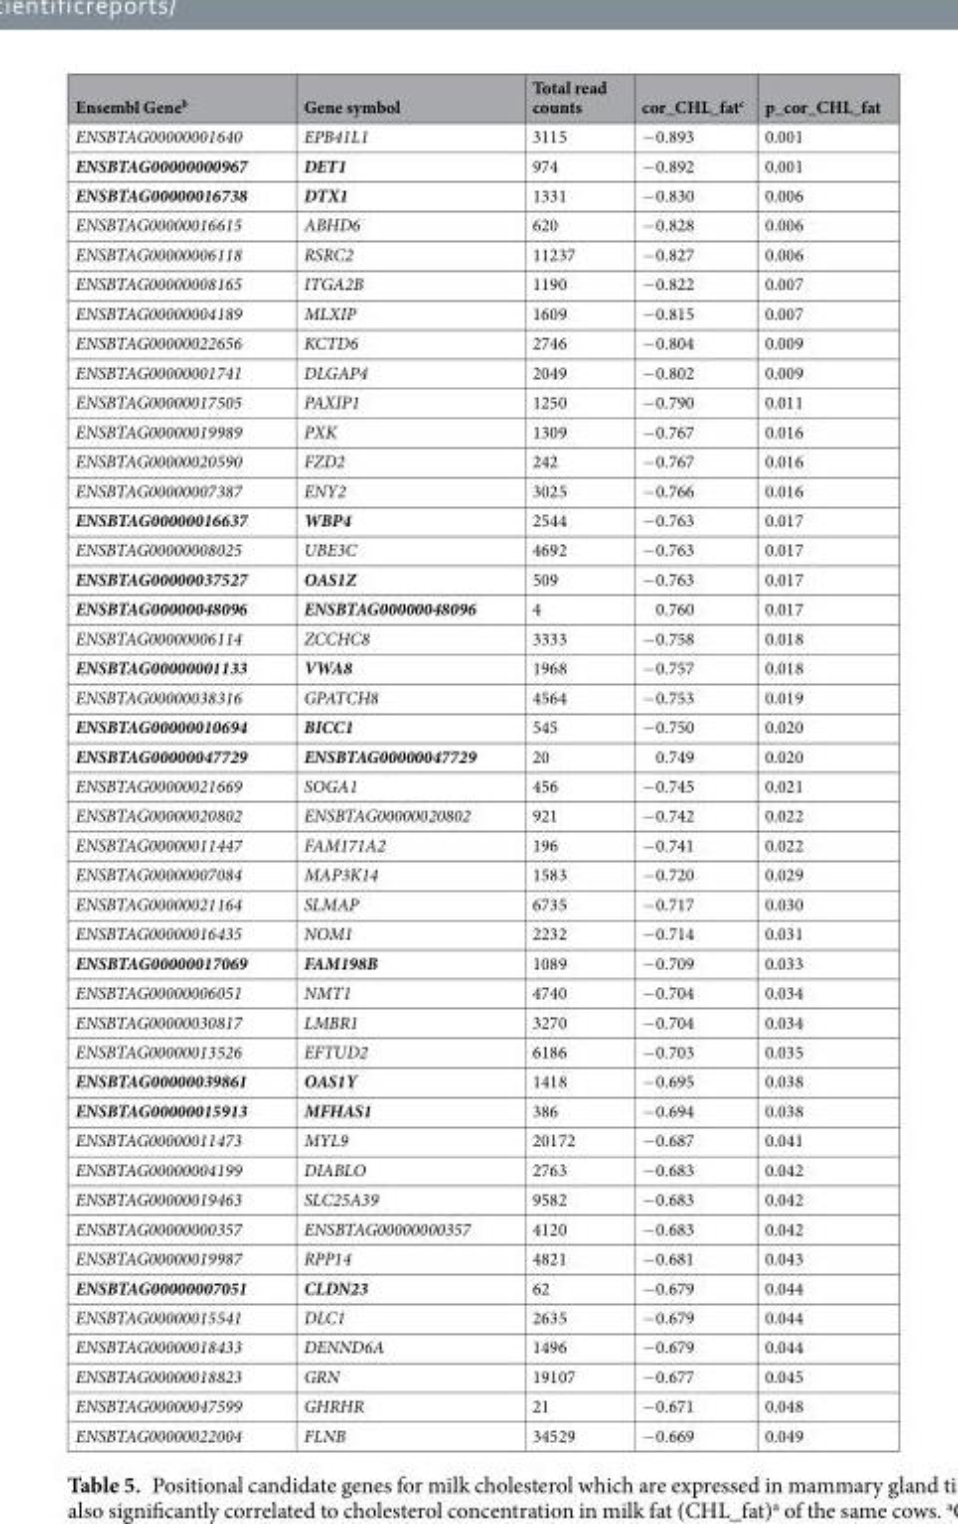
<table><thead><tr><td>Ensembl Gene<sup>b</sup></td><td>Gene symbol</td><td>Total read counts</td><td>cor_CHL_fat<sup>c</sup></td><td>p_cor_CHL_fat</td></tr></thead><tbody><tr><td>ENSBTAG00000001640</td><td>EPB41L1</td><td>3115</td><td>−0.893</td><td>0.001</td></tr><tr><td>ENSBTAG00000000967</td><td>DET1</td><td>974</td><td>−0.892</td><td>0.001</td></tr><tr><td>ENSBTAG00000016738</td><td>DTX1</td><td>1331</td><td>−0.830</td><td>0.006</td></tr><tr><td>ENSBTAG00000016615</td><td>ABHD6</td><td>620</td><td>−0.828</td><td>0.006</td></tr><tr><td>ENSBTAG00000006118</td><td>RSRC2</td><td>11237</td><td>−0.827</td><td>0.006</td></tr><tr><td>ENSBTAG00000008165</td><td>ITGA2B</td><td>1190</td><td>−0.822</td><td>0.007</td></tr><tr><td>ENSBTAG00000004189</td><td>MLXIP</td><td>1609</td><td>−0.815</td><td>0.007</td></tr><tr><td>ENSBTAG00000022656</td><td>KCTD6</td><td>2746</td><td>−0.804</td><td>0.009</td></tr><tr><td>ENSBTAG00000001741</td><td>DLGAP4</td><td>2049</td><td>−0.802</td><td>0.009</td></tr><tr><td>ENSBTAG00000017505</td><td>PAXIP1</td><td>1250</td><td>−0.790</td><td>0.011</td></tr><tr><td>ENSBTAG00000019989</td><td>PXK</td><td>1309</td><td>−0.767</td><td>0.016</td></tr><tr><td>ENSBTAG00000020590</td><td>FZD2</td><td>242</td><td>−0.767</td><td>0.016</td></tr><tr><td>ENSBTAG00000007387</td><td>ENY2</td><td>3025</td><td>−0.766</td><td>0.016</td></tr><tr><td>ENSBTAG00000016637</td><td>WBP4</td><td>2544</td><td>−0.763</td><td>0.017</td></tr><tr><td>ENSBTAG00000008025</td><td>UBE3C</td><td>4692</td><td>−0.763</td><td>0.017</td></tr><tr><td>ENSBTAG00000037527</td><td>OAS1Z</td><td>509</td><td>−0.763</td><td>0.017</td></tr><tr><td>ENSBTAG00000048096</td><td>ENSBTAG00000048096</td><td>4</td><td>0.760</td><td>0.017</td></tr><tr><td>ENSBTAG00000006114</td><td>ZCCHC8</td><td>3333</td><td>−0.758</td><td>0.018</td></tr><tr><td>ENSBTAG00000001133</td><td>VWA8</td><td>1968</td><td>−0.757</td><td>0.018</td></tr><tr><td>ENSBTAG00000038316</td><td>GPATCH8</td><td>4564</td><td>−0.753</td><td>0.019</td></tr><tr><td>ENSBTAG00000010694</td><td>BICC1</td><td>545</td><td>−0.750</td><td>0.020</td></tr><tr><td>ENSBTAG00000047729</td><td>ENSBTAG00000047729</td><td>20</td><td>0.749</td><td>0.020</td></tr><tr><td>ENSBTAG00000021669</td><td>SOGA1</td><td>456</td><td>−0.745</td><td>0.021</td></tr><tr><td>ENSBTAG00000020802</td><td>ENSBTAG00000020802</td><td>921</td><td>−0.742</td><td>0.022</td></tr><tr><td>ENSBTAG00000011447</td><td>FAM171A2</td><td>196</td><td>−0.741</td><td>0.022</td></tr><tr><td>ENSBTAG00000007084</td><td>MAP3K14</td><td>1583</td><td>−0.720</td><td>0.029</td></tr><tr><td>ENSBTAG00000021164</td><td>SLMAP</td><td>6735</td><td>−0.717</td><td>0.030</td></tr><tr><td>ENSBTAG00000016435</td><td>NOM1</td><td>2232</td><td>−0.714</td><td>0.031</td></tr><tr><td>ENSBTAG00000017069</td><td>FAM198B</td><td>1089</td><td>−0.709</td><td>0.033</td></tr><tr><td>ENSBTAG00000006051</td><td>NMT1</td><td>4740</td><td>−0.704</td><td>0.034</td></tr><tr><td>ENSBTAG00000030817</td><td>LMBR1</td><td>3270</td><td>−0.704</td><td>0.034</td></tr><tr><td>ENSBTAG00000013526</td><td>EFTUD2</td><td>6186</td><td>−0.703</td><td>0.035</td></tr><tr><td>ENSBTAG00000039861</td><td>OAS1Y</td><td>1418</td><td>−0.695</td><td>0.038</td></tr><tr><td>ENSBTAG00000015913</td><td>MFHAS1</td><td>386</td><td>−0.694</td><td>0.038</td></tr><tr><td>ENSBTAG00000011473</td><td>MYL9</td><td>20172</td><td>−0.687</td><td>0.041</td></tr><tr><td>ENSBTAG00000004199</td><td>DIABLO</td><td>2763</td><td>−0.683</td><td>0.042</td></tr><tr><td>ENSBTAG00000019463</td><td>SLC25A39</td><td>9582</td><td>−0.683</td><td>0.042</td></tr><tr><td>ENSBTAG00000000357</td><td>ENSBTAG00000000357</td><td>4120</td><td>−0.683</td><td>0.042</td></tr><tr><td>ENSBTAG00000019987</td><td>RPP14</td><td>4821</td><td>−0.681</td><td>0.043</td></tr><tr><td>ENSBTAG00000007051</td><td>CLDN23</td><td>62</td><td>−0.679</td><td>0.044</td></tr><tr><td>ENSBTAG00000015541</td><td>DLC1</td><td>2635</td><td>−0.679</td><td>0.044</td></tr><tr><td>ENSBTAG00000018433</td><td>DENND6A</td><td>1496</td><td>−0.679</td><td>0.044</td></tr><tr><td>ENSBTAG00000018823</td><td>GRN</td><td>19107</td><td>−0.677</td><td>0.045</td></tr><tr><td>ENSBTAG00000047599</td><td>GHRHR</td><td>21</td><td>−0.671</td><td>0.048</td></tr><tr><td>ENSBTAG00000022004</td><td>FLNB</td><td>34529</td><td>−0.669</td><td>0.049</td></tr></tbody></table>